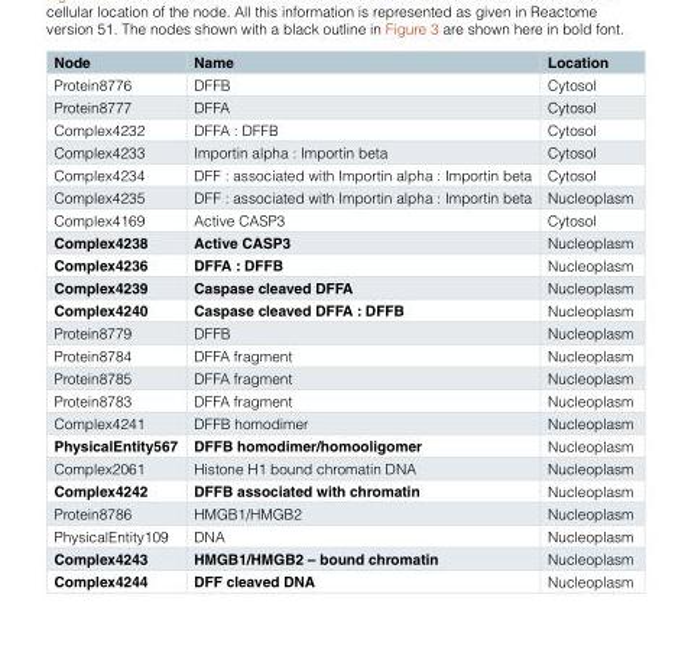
<table><thead><tr><td>Node</td><td>Name</td><td>Location</td></tr></thead><tbody><tr><td>Protein8776</td><td>DFFB</td><td>Cytosol</td></tr><tr><td>Protein8777</td><td>DFFA</td><td>Cytosol</td></tr><tr><td>Complex4232</td><td>DFFA : DFFB</td><td>Cytosol</td></tr><tr><td>Complex4233</td><td>Importin alpha : Importin beta</td><td>Cytosol</td></tr><tr><td>Complex4234</td><td>DFF : associated with Importin alpha : Importin beta</td><td>Cytosol</td></tr><tr><td>Complex4235</td><td>DFF : associated with Importin alpha : Importin beta</td><td>Nucleoplasm</td></tr><tr><td>Complex4169</td><td>Active CASP3</td><td>Cytosol</td></tr><tr><td>Complex4238</td><td>Active CASP3</td><td>Nucleoplasm</td></tr><tr><td>Complex4236</td><td>DFFA : DFFB</td><td>Nucleoplasm</td></tr><tr><td>Complex4239</td><td>Caspase cleaved DFFA</td><td>Nucleoplasm</td></tr><tr><td>Complex4240</td><td>Caspase cleaved DFFA : DFFB</td><td>Nucleoplasm</td></tr><tr><td>Protein8779</td><td>DFFB</td><td>Nucleoplasm</td></tr><tr><td>Protein8784</td><td>DFFA fragment</td><td>Nucleoplasm</td></tr><tr><td>Protein8785</td><td>DFFA fragment</td><td>Nucleoplasm</td></tr><tr><td>Protein8783</td><td>DFFA fragment</td><td>Nucleoplasm</td></tr><tr><td>Complex4241</td><td>DFFB homodimer</td><td>Nucleoplasm</td></tr><tr><td>PhysicalEntity567</td><td>DFFB homodimer/homooligomer</td><td>Nucleoplasm</td></tr><tr><td>Complex2061</td><td>Histone H1 bound chromatin DNA</td><td>Nucleoplasm</td></tr><tr><td>Complex4242</td><td>DFFB associated with chromatin</td><td>Nucleoplasm</td></tr><tr><td>Protein8786</td><td>HMGB1/HMGB2</td><td>Nucleoplasm</td></tr><tr><td>PhysicalEntity109</td><td>DNA</td><td>Nucleoplasm</td></tr><tr><td>Complex4243</td><td>HMGB1/HMGB2 – bound chromatin</td><td>Nucleoplasm</td></tr><tr><td>Complex4244</td><td>DFF cleaved DNA</td><td>Nucleoplasm</td></tr></tbody></table>